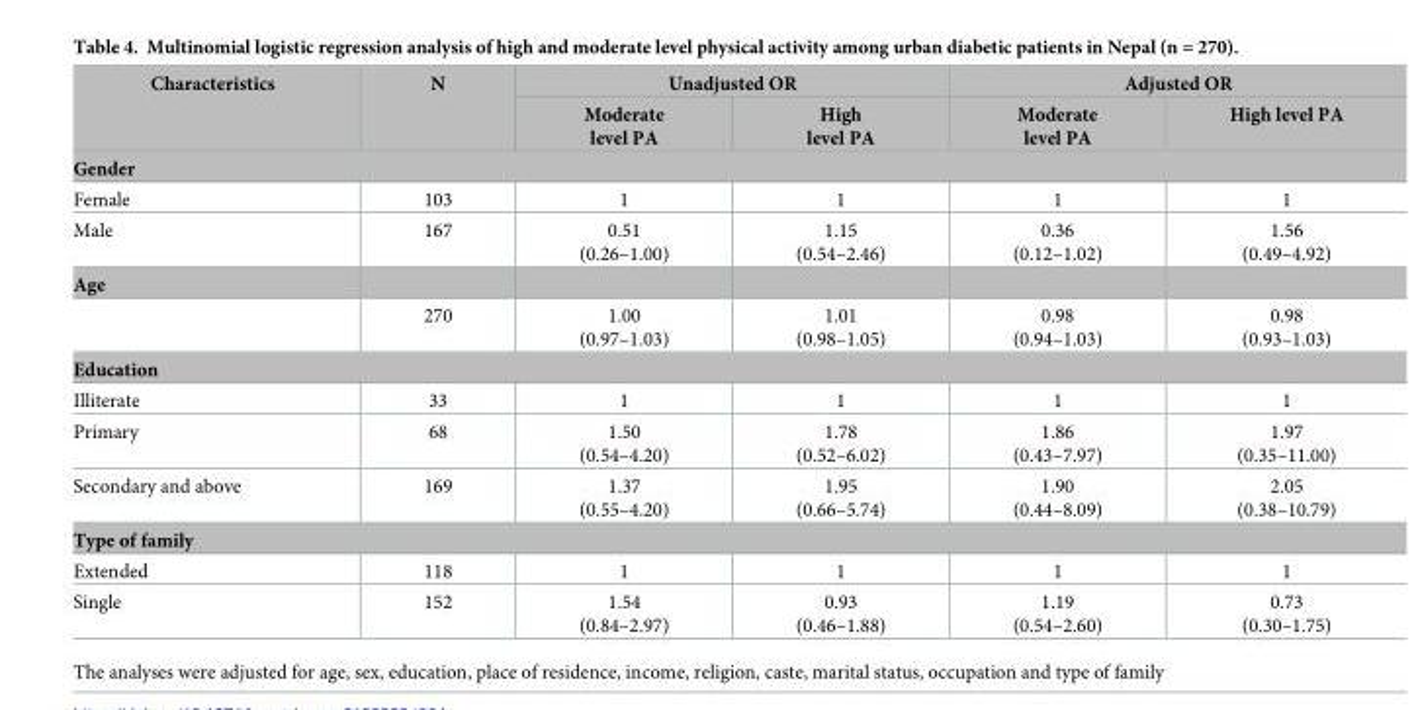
<table><thead><tr><td rowspan="2">Characteristics</td><td rowspan="2">N</td><td colspan="2">Unadjusted OR</td><td colspan="2">Adjusted OR</td></tr><tr><td>Moderate level PA</td><td>High level PA</td><td>Moderate level PA</td><td>High level PA</td></tr></thead><tbody><tr><td colspan="6">Gender</td></tr><tr><td>Female</td><td>103</td><td>1</td><td>1</td><td>1</td><td>1</td></tr><tr><td>Male</td><td>167</td><td>0.51 (0.26–1.00)</td><td>1.15 (0.54–2.46)</td><td>0.36 (0.12–1.02)</td><td>1.56 (0.49–4.92)</td></tr><tr><td colspan="6">Age</td></tr><tr><td></td><td>270</td><td>1.00 (0.97–1.03)</td><td>1.01 (0.98–1.05)</td><td>0.98 (0.94–1.03)</td><td>0.98 (0.93–1.03)</td></tr><tr><td colspan="6">Education</td></tr><tr><td>Illiterate</td><td>33</td><td>1</td><td>1</td><td>1</td><td>1</td></tr><tr><td>Primary</td><td>68</td><td>1.50 (0.54–4.20)</td><td>1.78 (0.52–6.02)</td><td>1.86 (0.43–7.97)</td><td>1.97 (0.35–11.00)</td></tr><tr><td>Secondary and above</td><td>169</td><td>1.37 (0.55–4.20)</td><td>1.95 (0.66–5.74)</td><td>1.90 (0.44–8.09)</td><td>2.05 (0.38–10.79)</td></tr><tr><td colspan="6">Type of family</td></tr><tr><td>Extended</td><td>118</td><td>1</td><td>1</td><td>1</td><td>1</td></tr><tr><td>Single</td><td>152</td><td>1.54 (0.84–2.97)</td><td>0.93 (0.46–1.88)</td><td>1.19 (0.54–2.60)</td><td>0.73 (0.30–1.75)</td></tr></tbody></table>